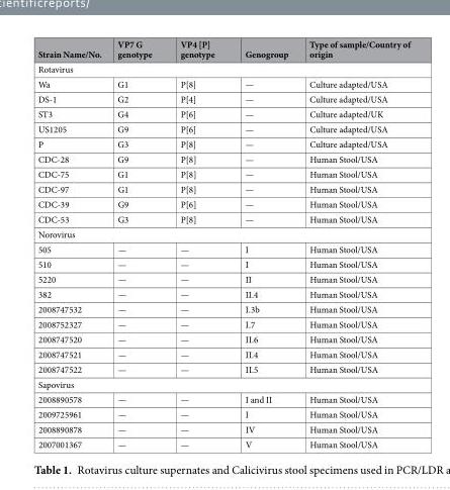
<table><thead><tr><td>Strain Name/No.</td><td>VP7 G genotype</td><td>VP4 [P] genotype</td><td>Genogroup</td><td>Type of sample/Country of origin</td></tr></thead><tbody><tr><td colspan="5">Rotavirus</td></tr><tr><td>Wa</td><td>G1</td><td>P[8]</td><td>—</td><td>Culture adapted/USA</td></tr><tr><td>DS-1</td><td>G2</td><td>P[4]</td><td>—</td><td>Culture adapted/USA</td></tr><tr><td>ST3</td><td>G4</td><td>P[6]</td><td>—</td><td>Culture adapted/UK</td></tr><tr><td>US1205</td><td>G9</td><td>P[6]</td><td>—</td><td>Culture adapted/USA</td></tr><tr><td>P</td><td>G3</td><td>P[8]</td><td>—</td><td>Culture adapted/USA</td></tr><tr><td>CDC-28</td><td>G9</td><td>P[8]</td><td>—</td><td>Human Stool/USA</td></tr><tr><td>CDC-75</td><td>G1</td><td>P[8]</td><td>—</td><td>Human Stool/USA</td></tr><tr><td>CDC-97</td><td>G1</td><td>P[8]</td><td>—</td><td>Human Stool/USA</td></tr><tr><td>CDC-39</td><td>G9</td><td>P[6]</td><td>—</td><td>Human Stool/USA</td></tr><tr><td>CDC-53</td><td>G3</td><td>P[8]</td><td>—</td><td>Human Stool/USA</td></tr><tr><td colspan="5">Norovirus</td></tr><tr><td>505</td><td>—</td><td>—</td><td>I</td><td>Human Stool/USA</td></tr><tr><td>510</td><td>—</td><td>—</td><td>I</td><td>Human Stool/USA</td></tr><tr><td>5220</td><td>—</td><td>—</td><td>II</td><td>Human Stool/USA</td></tr><tr><td>382</td><td>—</td><td>—</td><td>II.4</td><td>Human Stool/USA</td></tr><tr><td>2008747532</td><td>—</td><td>—</td><td>I.3b</td><td>Human Stool/USA</td></tr><tr><td>2008752327</td><td>—</td><td>—</td><td>I.7</td><td>Human Stool/USA</td></tr><tr><td>2008747520</td><td>—</td><td>—</td><td>II.6</td><td>Human Stool/USA</td></tr><tr><td>2008747521</td><td>—</td><td>—</td><td>II.4</td><td>Human Stool/USA</td></tr><tr><td>2008747522</td><td>—</td><td>—</td><td>II.5</td><td>Human Stool/USA</td></tr><tr><td colspan="5">Sapovirus</td></tr><tr><td>2008890578</td><td>—</td><td>—</td><td>I and II</td><td>Human Stool/USA</td></tr><tr><td>2009725961</td><td>—</td><td>—</td><td>I</td><td>Human Stool/USA</td></tr><tr><td>2008890878</td><td>—</td><td>—</td><td>IV</td><td>Human Stool/USA</td></tr><tr><td>2007001367</td><td>—</td><td>—</td><td>V</td><td>Human Stool/USA</td></tr></tbody></table>